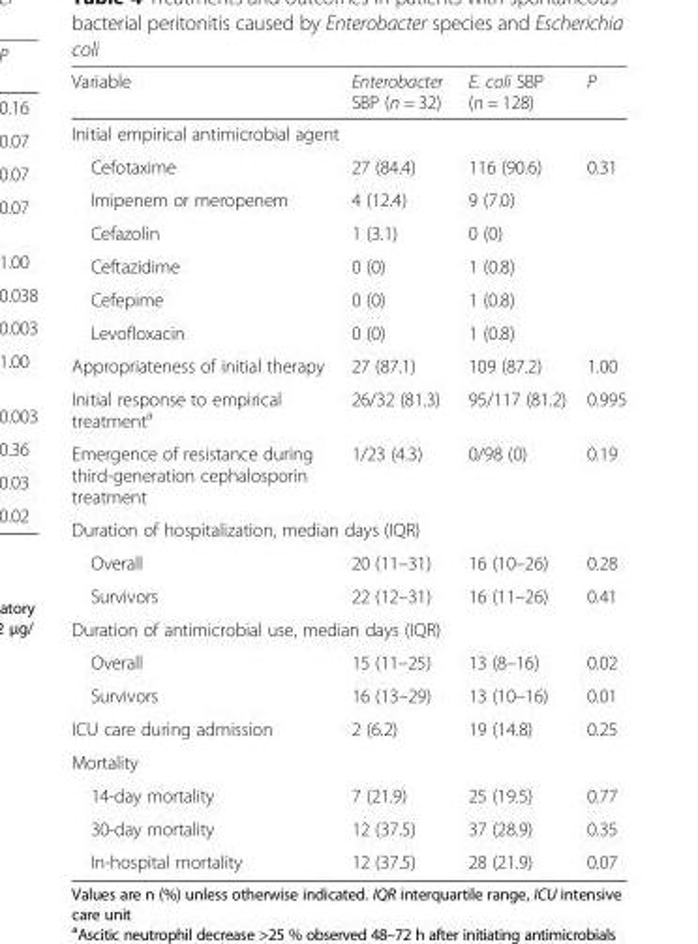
<table><thead><tr><td>Variable</td><td>Enterobacter SBP (n = 32)</td><td>E. coli SBP (n = 128)</td><td>P</td></tr></thead><tbody><tr><td colspan="4">Initial empirical antimicrobial agent</td></tr><tr><td>Cefotaxime</td><td>27 (84.4)</td><td>116 (90.6)</td><td>0.31</td></tr><tr><td>Imipenem or meropenem</td><td>4 (12.4)</td><td>9 (7.0)</td><td></td></tr><tr><td>Cefazolin</td><td>1 (3.1)</td><td>0 (0)</td><td></td></tr><tr><td>Ceftazidime</td><td>0 (0)</td><td>1 (0.8)</td><td></td></tr><tr><td>Cefepime</td><td>0 (0)</td><td>1 (0.8)</td><td></td></tr><tr><td>Levofloxacin</td><td>0 (0)</td><td>1 (0.8)</td><td></td></tr><tr><td>Appropriateness of initial therapy</td><td>27 (87.1)</td><td>109 (87.2)</td><td>1.00</td></tr><tr><td>Initial response to empirical treatment<sup>a</sup></td><td>26/32 (81.3)</td><td>95/117 (81.2)</td><td>0.995</td></tr><tr><td>Emergence of resistance during third-generation cephalosporin treatment</td><td>1/23 (4.3)</td><td>0/98 (0)</td><td>0.19</td></tr><tr><td colspan="4">Duration of hospitalization, median days (IQR)</td></tr><tr><td>Overall</td><td>20 (11–31)</td><td>16 (10–26)</td><td>0.28</td></tr><tr><td>Survivors</td><td>22 (12–31)</td><td>16 (11–26)</td><td>0.41</td></tr><tr><td colspan="4">Duration of antimicrobial use, median days (IQR)</td></tr><tr><td>Overall</td><td>15 (11–25)</td><td>13 (8–16)</td><td>0.02</td></tr><tr><td>Survivors</td><td>16 (13–29)</td><td>13 (10–16)</td><td>0.01</td></tr><tr><td>ICU care during admission</td><td>2 (6.2)</td><td>19 (14.8)</td><td>0.25</td></tr><tr><td colspan="4">Mortality</td></tr><tr><td>14-day mortality</td><td>7 (21.9)</td><td>25 (19.5)</td><td>0.77</td></tr><tr><td>30-day mortality</td><td>12 (37.5)</td><td>37 (28.9)</td><td>0.35</td></tr><tr><td>In-hospital mortality</td><td>12 (37.5)</td><td>28 (21.9)</td><td>0.07</td></tr></tbody></table>